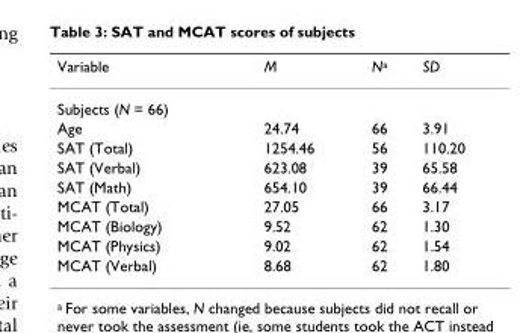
<table><thead><tr><td>Variable</td><td>M</td><td>N<sup>a</sup></td><td>SD</td></tr></thead><tbody><tr><td colspan="4">Subjects (N = 66)</td></tr><tr><td>Age</td><td>24.74</td><td>66</td><td>3.91</td></tr><tr><td>SAT (Total)</td><td>1254.46</td><td>56</td><td>110.20</td></tr><tr><td>SAT (Verbal)</td><td>623.08</td><td>39</td><td>65.58</td></tr><tr><td>SAT (Math)</td><td>654.10</td><td>39</td><td>66.44</td></tr><tr><td>MCAT (Total)</td><td>27.05</td><td>66</td><td>3.17</td></tr><tr><td>MCAT (Biology)</td><td>9.52</td><td>62</td><td>1.30</td></tr><tr><td>MCAT (Physics)</td><td>9.02</td><td>62</td><td>1.54</td></tr><tr><td>MCAT (Verbal)</td><td>8.68</td><td>62</td><td>1.80</td></tr></tbody></table>